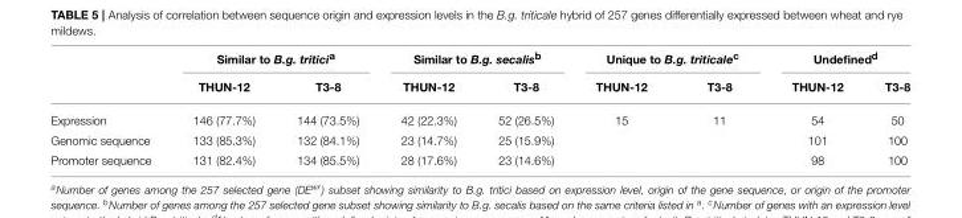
<table><thead><tr><td rowspan="2"></td><td colspan="2">Similar to B.g. tritici<sup>a</sup></td><td colspan="2">Similar to B.g. secalis<sup>b</sup></td><td colspan="2">Unique to B.g. triticale<sup>c</sup></td><td colspan="2">Undefined<sup>d</sup></td></tr><tr><td>THUN-12</td><td>T3-8</td><td>THUN-12</td><td>T3-8</td><td>THUN-12</td><td>T3-8</td><td>THUN-12</td><td>T3-8</td></tr></thead><tbody><tr><td>Expression</td><td>146 (77.7%)</td><td>144 (73.5%)</td><td>42 (22.3%)</td><td>52 (26.5%)</td><td>15</td><td>11</td><td>54</td><td>50</td></tr><tr><td>Genomic sequence</td><td>133 (85.3%)</td><td>132 (84.1%)</td><td>23 (14.7%)</td><td>25 (15.9%)</td><td></td><td></td><td>101</td><td>100</td></tr><tr><td>Promoter sequence</td><td>131 (82.4%)</td><td>134 (85.5%)</td><td>28 (17.6%)</td><td>23 (14.6%)</td><td></td><td></td><td>98</td><td>100</td></tr></tbody></table>